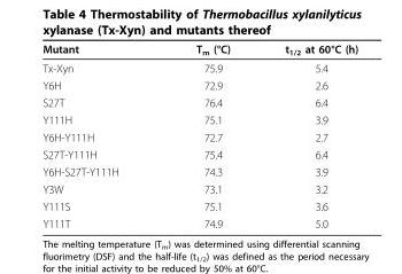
<table><thead><tr><td>Mutant</td><td>T<sub>m</sub> (°C)</td><td>t<sub>1/2</sub> at 60°C (h)</td></tr></thead><tbody><tr><td>Tx-Xyn</td><td>75.9</td><td>5.4</td></tr><tr><td>Y6H</td><td>72.9</td><td>2.6</td></tr><tr><td>S27T</td><td>76.4</td><td>6.4</td></tr><tr><td>Y111H</td><td>75.1</td><td>3.9</td></tr><tr><td>Y6H-Y111H</td><td>72.7</td><td>2.7</td></tr><tr><td>S27T-Y111H</td><td>75.4</td><td>6.4</td></tr><tr><td>Y6H-S27T-Y111H</td><td>74.3</td><td>3.9</td></tr><tr><td>Y3W</td><td>73.1</td><td>3.2</td></tr><tr><td>Y111S</td><td>75.1</td><td>3.6</td></tr><tr><td>Y111T</td><td>74.9</td><td>5.0</td></tr></tbody></table>